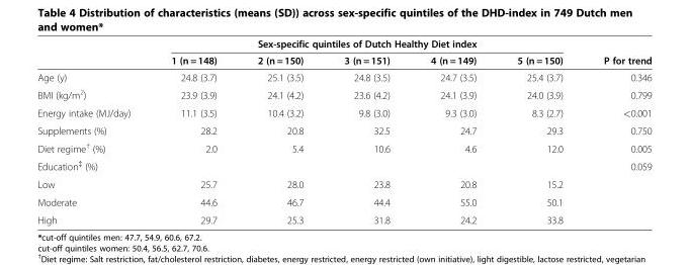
<table><thead><tr><td rowspan="2"></td><td colspan="5">Sex-specific quintiles of Dutch Healthy Diet index</td><td rowspan="2">P for trend</td></tr><tr><td>1 (n = 148)</td><td>2 (n = 150)</td><td>3 (n = 151)</td><td>4 (n = 149)</td><td>5 (n = 150)</td></tr></thead><tbody><tr><td>Age (y)</td><td>24.8 (3.7)</td><td>25.1 (3.5)</td><td>24.8 (3.5)</td><td>24.7 (3.5)</td><td>25.4 (3.7)</td><td>0.346</td></tr><tr><td>BMI (kg/m<sup>2</sup>)</td><td>23.9 (3.9)</td><td>24.1 (4.2)</td><td>23.6 (4.2)</td><td>24.1 (3.9)</td><td>24.0 (3.9)</td><td>0.799</td></tr><tr><td>Energy intake (MJ/day)</td><td>11.1 (3.5)</td><td>10.4 (3.2)</td><td>9.8 (3.0)</td><td>9.3 (3.0)</td><td>8.3 (2.7)</td><td>&lt;0.001</td></tr><tr><td>Supplements (%)</td><td>28.2</td><td>20.8</td><td>32.5</td><td>24.7</td><td>29.3</td><td>0.750</td></tr><tr><td>Diet regime<sup>†</sup> (%)</td><td>2.0</td><td>5.4</td><td>10.6</td><td>4.6</td><td>12.0</td><td>0.005</td></tr><tr><td>Education<sup>‡</sup> (%)</td><td></td><td></td><td></td><td></td><td></td><td>0.059</td></tr><tr><td>Low</td><td>25.7</td><td>28.0</td><td>23.8</td><td>20.8</td><td>15.2</td><td></td></tr><tr><td>Moderate</td><td>44.6</td><td>46.7</td><td>44.4</td><td>55.0</td><td>50.1</td><td></td></tr><tr><td>High</td><td>29.7</td><td>25.3</td><td>31.8</td><td>24.2</td><td>33.8</td><td></td></tr></tbody></table>